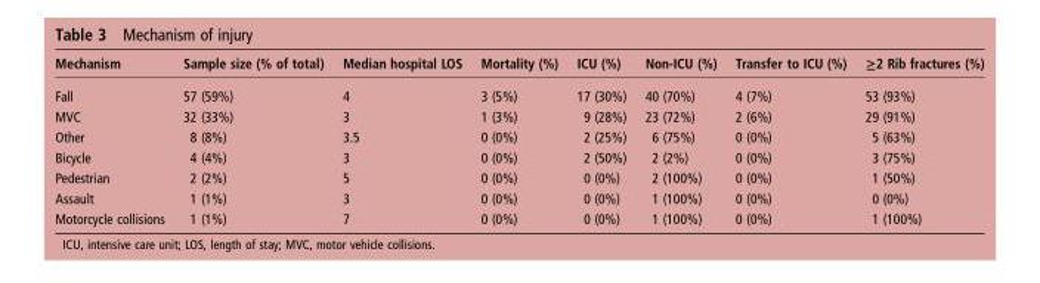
<table><thead><tr><td>Mechanism</td><td>Sample size (% of total)</td><td>Median hospital LOS</td><td>Mortality (%)</td><td>ICU (%)</td><td>Non-ICU (%)</td><td>Transfer to ICU (%)</td><td>≥2 Rib fractures (%)</td></tr></thead><tbody><tr><td>Fall</td><td>57 (59%)</td><td>4</td><td>3 (5%)</td><td>17 (30%)</td><td>40 (70%)</td><td>4 (7%)</td><td>53 (93%)</td></tr><tr><td>MVC</td><td>32 (33%)</td><td>3</td><td>1 (3%)</td><td>9 (28%)</td><td>23 (72%)</td><td>2 (6%)</td><td>29 (91%)</td></tr><tr><td>Other</td><td>8 (8%)</td><td>3.5</td><td>0 (0%)</td><td>2 (25%)</td><td>6 (75%)</td><td>0 (0%)</td><td>5 (63%)</td></tr><tr><td>Bicycle</td><td>4 (4%)</td><td>3</td><td>0 (0%)</td><td>2 (50%)</td><td>2 (2%)</td><td>0 (0%)</td><td>3 (75%)</td></tr><tr><td>Pedestrian</td><td>2 (2%)</td><td>5</td><td>0 (0%)</td><td>0 (0%)</td><td>2 (100%)</td><td>0 (0%)</td><td>1 (50%)</td></tr><tr><td>Assault</td><td>1 (1%)</td><td>3</td><td>0 (0%)</td><td>0 (0%)</td><td>1 (100%)</td><td>0 (0%)</td><td>0 (0%)</td></tr><tr><td>Motorcycle collisions</td><td>1 (1%)</td><td>7</td><td>0 (0%)</td><td>0 (0%)</td><td>1 (100%)</td><td>0 (0%)</td><td>1 (100%)</td></tr></tbody></table>